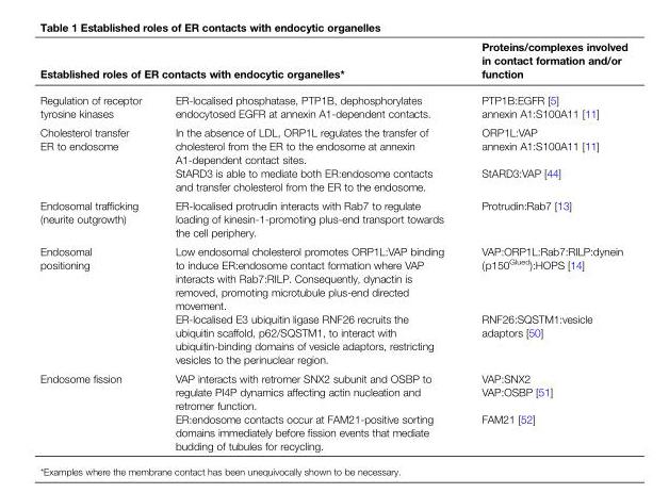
<table><thead><tr><td colspan="2">Established roles of ER contacts with endocytic organelles*</td><td rowspan="2">Proteins/complexes involved in contact formation and/or function PTP1B:EGFR [5] annexin A1:S100A11 [11]</td></tr><tr><td>Regulation of receptor tyrosine kinases</td><td>ER-localised phosphatase, PTP1B, dephosphorylates endocytosed EGFR at annexin A1-dependent contacts.</td></tr></thead><tbody><tr><td rowspan="2">Cholesterol transfer ER to endosome</td><td>In the absence of LDL, ORP1L regulates the transfer of cholesterol from the ER to the endosome at annexin A1-dependent contact sites.</td><td>ORP1L:VAP annexin A1:S100A11 [11]</td></tr><tr><td>StARD3 is able to mediate both ER:endosome contacts and transfer cholesterol from the ER to the endosome.</td><td>StARD3:VAP [44]</td></tr><tr><td>Endosomal trafficking (neurite outgrowth)</td><td>ER-localised protrudin interacts with Rab7 to regulate loading of kinesin-1-promoting plus-end transport towards the cell periphery.</td><td>Protrudin:Rab7 [13]</td></tr><tr><td rowspan="2">Endosomal positioning</td><td>Low endosomal cholesterol promotes ORP1L:VAP binding to induce ER:endosome contact formation where VAP interacts with Rab7:RILP. Consequently, dynactin is removed, promoting microtubule plus-end directed movement.</td><td>VAP:ORP1L:Rab7:RILP:dynein (p150<sup>Glued</sup>):HOPS [14]</td></tr><tr><td>ER-localised E3 ubiquitin ligase RNF26 recruits the ubiquitin scaffold, p62/SQSTM1, to interact with ubiquitin-binding domains of vesicle adaptors, restricting vesicles to the perinuclear region.</td><td>RNF26:SQSTM1:vesicle adaptors [50]</td></tr><tr><td rowspan="2">Endosome fission</td><td>VAP interacts with retromer SNX2 subunit and OSBP to regulate PI4P dynamics affecting actin nucleation and retromer function.</td><td>VAP:SNX2 VAP:OSBP [51]</td></tr><tr><td>ER:endosome contacts occur at FAM21-positive sorting domains immediately before fission events that mediate budding of tubules for recycling.</td><td>FAM21 [52]</td></tr></tbody></table>